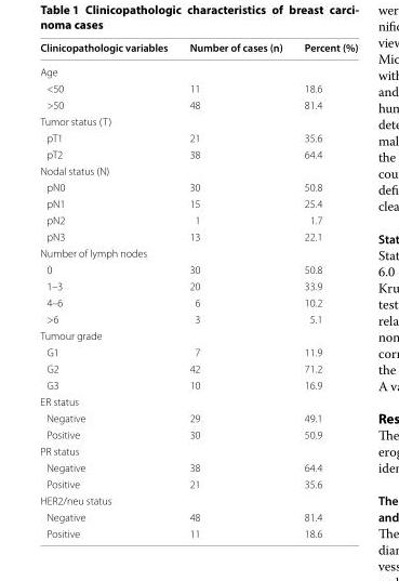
<table><thead><tr><td>Clinicopathologic variables</td><td>Number of cases (n)</td><td>Percent (%)</td></tr></thead><tbody><tr><td colspan="3">Age</td></tr><tr><td>&lt;50</td><td>11</td><td>18.6</td></tr><tr><td>&gt;50</td><td>48</td><td>81.4</td></tr><tr><td colspan="3">Tumor status (T)</td></tr><tr><td>pT1</td><td>21</td><td>35.6</td></tr><tr><td>pT2</td><td>38</td><td>64.4</td></tr><tr><td colspan="3">Nodal status (N)</td></tr><tr><td>pN0</td><td>30</td><td>50.8</td></tr><tr><td>pN1</td><td>15</td><td>25.4</td></tr><tr><td>pN2</td><td>1</td><td>1.7</td></tr><tr><td>pN3</td><td>13</td><td>22.1</td></tr><tr><td colspan="3">Number of lymph nodes</td></tr><tr><td>0</td><td>30</td><td>50.8</td></tr><tr><td>1–3</td><td>20</td><td>33.9</td></tr><tr><td>4–6</td><td>6</td><td>10.2</td></tr><tr><td>&gt;6</td><td>3</td><td>5.1</td></tr><tr><td colspan="3">Tumour grade</td></tr><tr><td>G1</td><td>7</td><td>11.9</td></tr><tr><td>G2</td><td>42</td><td>71.2</td></tr><tr><td>G3</td><td>10</td><td>16.9</td></tr><tr><td colspan="3">ER status</td></tr><tr><td>Negative</td><td>29</td><td>49.1</td></tr><tr><td>Positive</td><td>30</td><td>50.9</td></tr><tr><td colspan="3">PR status</td></tr><tr><td>Negative</td><td>38</td><td>64.4</td></tr><tr><td>Positive</td><td>21</td><td>35.6</td></tr><tr><td colspan="3">HER2/neu status</td></tr><tr><td>Negative</td><td>48</td><td>81.4</td></tr><tr><td>Positive</td><td>11</td><td>18.6</td></tr></tbody></table>